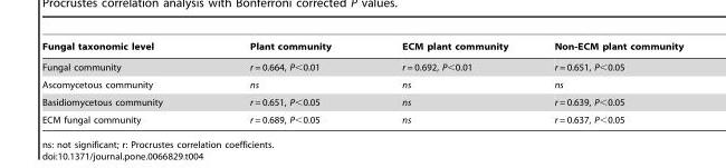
<table><thead><tr><td>Fungal taxonomic level</td><td>Plant community</td><td>ECM plant community</td><td>Non-ECM plant community</td></tr></thead><tbody><tr><td>Fungal community</td><td>r = 0.664, P&lt;0.01</td><td>r = 0.692, P&lt;0.01</td><td>r = 0.651, P&lt;0.05</td></tr><tr><td>Ascomycetous community</td><td>ns</td><td>ns</td><td>ns</td></tr><tr><td>Basidiomycetous community</td><td>r = 0.651, P&lt;0.05</td><td>ns</td><td>r = 0.639, P&lt;0.05</td></tr><tr><td>ECM fungal community</td><td>r = 0.689, P&lt;0.05</td><td>ns</td><td>r = 0.637, P&lt;0.05</td></tr></tbody></table>